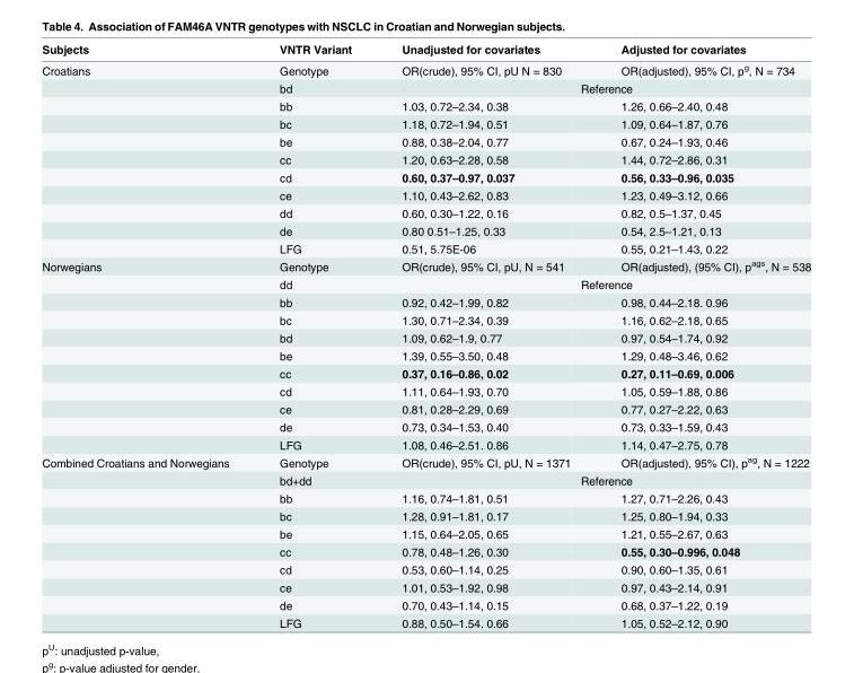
<table><thead><tr><td>Subjects</td><td>VNTR Variant</td><td>Unadjusted for covariates</td><td>Adjusted for covariates</td></tr></thead><tbody><tr><td rowspan="11">Croatians</td><td>Genotype</td><td>OR(crude), 95% CI, pU N = 830</td><td>OR(adjusted), 95% CI, p<sup>g</sup>, N = 734</td></tr><tr><td>bd</td><td colspan="2">Reference</td></tr><tr><td>bb</td><td>1.03, 0.72–2.34, 0.38</td><td>1.26, 0.66–2.40, 0.48</td></tr><tr><td>bc</td><td>1.18, 0.72–1.94, 0.51</td><td>1.09, 0.64–1.87, 0.76</td></tr><tr><td>be</td><td>0.88, 0.38–2.04, 0.77</td><td>0.67, 0.24–1.93, 0.46</td></tr><tr><td>cc</td><td>1.20, 0.63–2.28, 0.58</td><td>1.44, 0.72–2.86, 0.31</td></tr><tr><td>cd</td><td>0.60, 0.37–0.97, 0.037</td><td>0.56, 0.33–0.96, 0.035</td></tr><tr><td>ce</td><td>1.10, 0.43–2.62, 0.83</td><td>1.23, 0.49–3.12, 0.66</td></tr><tr><td>dd</td><td>0.60, 0.30–1.22, 0.16</td><td>0.82, 0.5–1.37, 0.45</td></tr><tr><td>de</td><td>0.80 0.51–1.25, 0.33</td><td>0.54, 2.5–1.21, 0.13</td></tr><tr><td>LFG</td><td>0.51, 5.75E-06</td><td>0.55, 0.21–1.43, 0.22</td></tr><tr><td rowspan="11">Norwegians</td><td>Genotype</td><td>OR(crude), 95% CI, pU, N = 541</td><td>OR(adjusted), (95% CI), p<sup>ags</sup>, N = 538</td></tr><tr><td>dd</td><td colspan="2">Reference</td></tr><tr><td>bb</td><td>0.92, 0.42–1.99, 0.82</td><td>0.98, 0.44–2.18. 0.96</td></tr><tr><td>bc</td><td>1.30, 0.71–2.34, 0.39</td><td>1.16, 0.62–2.18, 0.65</td></tr><tr><td>bd</td><td>1.09, 0.62–1.9, 0.77</td><td>0.97, 0.54–1.74, 0.92</td></tr><tr><td>be</td><td>1.39, 0.55–3.50, 0.48</td><td>1.29, 0.48–3.46, 0.62</td></tr><tr><td>cc</td><td>0.37, 0.16–0.86, 0.02</td><td>0.27, 0.11–0.69, 0.006</td></tr><tr><td>cd</td><td>1.11, 0.64–1.93, 0.70</td><td>1.05, 0.59–1.88, 0.86</td></tr><tr><td>ce</td><td>0.81, 0.28–2.29, 0.69</td><td>0.77, 0.27–2.22, 0.63</td></tr><tr><td>de</td><td>0.73, 0.34–1.53, 0.40</td><td>0.73, 0.33–1.59, 0.43</td></tr><tr><td>LFG</td><td>1.08, 0.46–2.51. 0.86</td><td>1.14, 0.47–2.75, 0.78</td></tr><tr><td rowspan="10">Combined Croatians and Norwegians</td><td>Genotype</td><td>OR(crude), 95% CI, pU, N = 1371</td><td>OR(adjusted), 95% CI), p<sup>ag</sup>, N = 1222</td></tr><tr><td>bd+dd</td><td colspan="2">Reference</td></tr><tr><td>bb</td><td>1.16, 0.74–1.81, 0.51</td><td>1.27, 0.71–2.26, 0.43</td></tr><tr><td>bc</td><td>1.28, 0.91–1.81, 0.17</td><td>1.25, 0.80–1.94, 0.33</td></tr><tr><td>be</td><td>1.15, 0.64–2.05, 0.65</td><td>1.21, 0.55–2.67, 0.63</td></tr><tr><td>cc</td><td>0.78, 0.48–1.26, 0.30</td><td>0.55, 0.30–0.996, 0.048</td></tr><tr><td>cd</td><td>0.53, 0.60–1.14, 0.25</td><td>0.90, 0.60–1.35, 0.61</td></tr><tr><td>ce</td><td>1.01, 0.53–1.92, 0.98</td><td>0.97, 0.43–2.14, 0.91</td></tr><tr><td>de</td><td>0.70, 0.43–1.14, 0.15</td><td>0.68, 0.37–1.22, 0.19</td></tr><tr><td>LFG</td><td>0.88, 0.50–1.54. 0.66</td><td>1.05, 0.52–2.12, 0.90</td></tr></tbody></table>